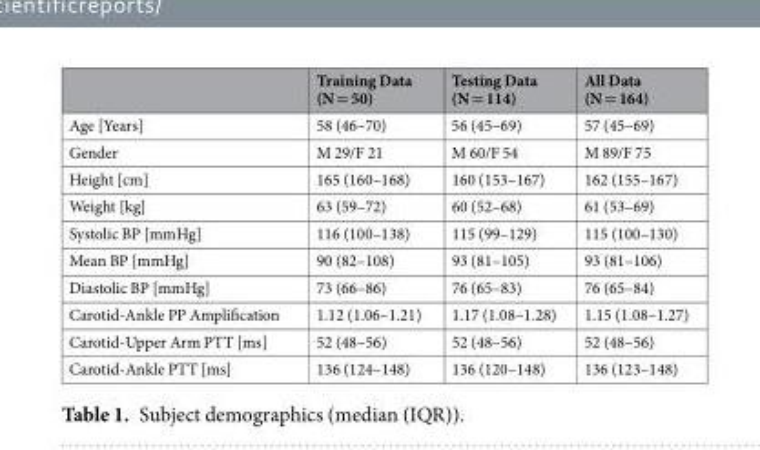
<table><thead><tr><td></td><td>Training Data (N = 50)</td><td>Testing Data (N = 114)</td><td>All Data (N = 164)</td></tr></thead><tbody><tr><td>Age [Years]</td><td>58 (46–70)</td><td>56 (45–69)</td><td>57 (45–69)</td></tr><tr><td>Gender</td><td>M 29/F 21</td><td>M 60/F 54</td><td>M 89/F 75</td></tr><tr><td>Height [cm]</td><td>165 (160–168)</td><td>160 (153–167)</td><td>162 (155–167)</td></tr><tr><td>Weight [kg]</td><td>63 (59–72)</td><td>60 (52–68)</td><td>61 (53–69)</td></tr><tr><td>Systolic BP [mmHg]</td><td>116 (100–138)</td><td>115 (99–129)</td><td>115 (100–130)</td></tr><tr><td>Mean BP [mmHg]</td><td>90 (82–108)</td><td>93 (81–105)</td><td>93 (81–106)</td></tr><tr><td>Diastolic BP [mmHg]</td><td>73 (66–86)</td><td>76 (65–83)</td><td>76 (65–84)</td></tr><tr><td>Carotid-Ankle PP Amplification</td><td>1.12 (1.06–1.21)</td><td>1.17 (1.08–1.28)</td><td>1.15 (1.08–1.27)</td></tr><tr><td>Carotid-Upper Arm PTT [ms]</td><td>52 (48–56)</td><td>52 (48–56)</td><td>52 (48–56)</td></tr><tr><td>Carotid-Ankle PTT [ms]</td><td>136 (124–148)</td><td>136 (120–148)</td><td>136 (123–148)</td></tr></tbody></table>